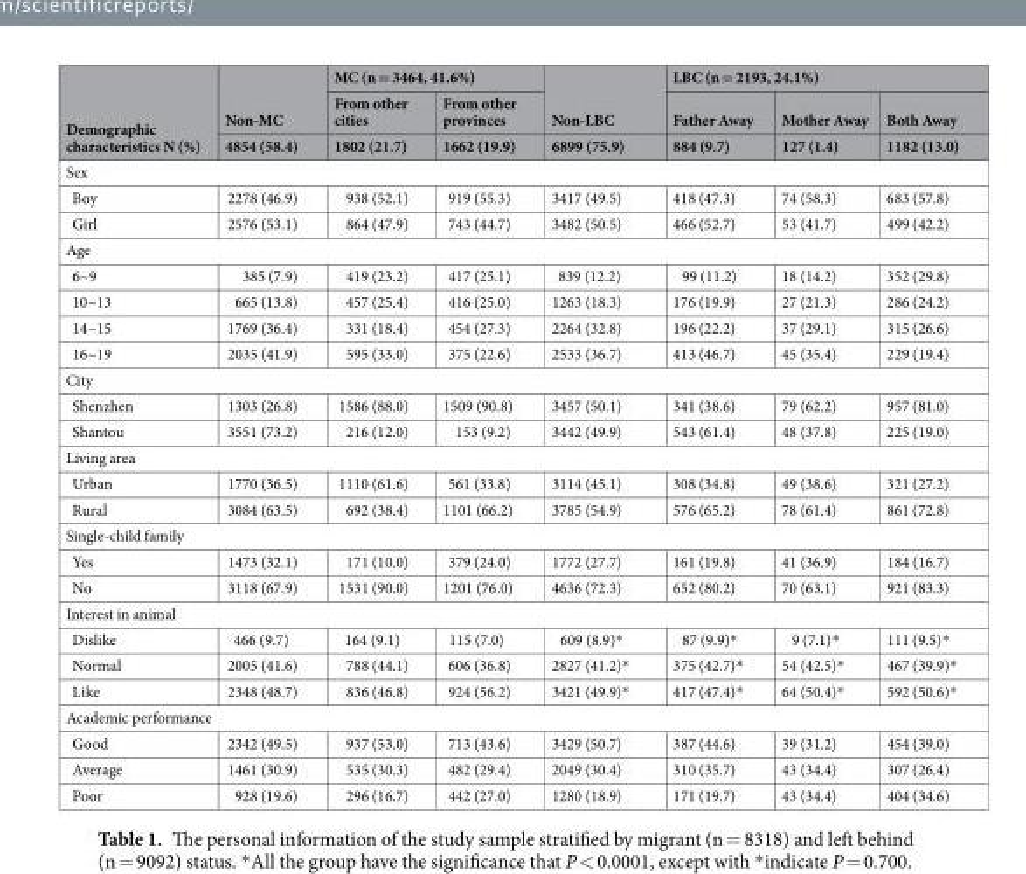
<table><thead><tr><td rowspan="3">Demographic characteristics N (%)</td><td rowspan="3">Non-MC 4854 (58.4)</td><td colspan="2">MC (n = 3464, 41.6%)</td><td rowspan="3">Non-LBC 6899 (75.9)</td><td colspan="3">LBC (n = 2193, 24.1%)</td></tr><tr><td rowspan="2">From other cities 1802 (21.7)</td><td rowspan="2">From other provinces 1662 (19.9)</td><td rowspan="2">Father Away 884 (9.7)</td><td rowspan="2">Mother Away 127 (1.4)</td><td rowspan="2">Both Away 1182 (13.0)</td></tr><tr></tr></thead><tbody><tr><td colspan="8">Sex</td></tr><tr><td>Boy</td><td>2278 (46.9)</td><td>938 (52.1)</td><td>919 (55.3)</td><td>3417 (49.5)</td><td>418 (47.3)</td><td>74 (58.3)</td><td>683 (57.8)</td></tr><tr><td>Girl</td><td>2576 (53.1)</td><td>864 (47.9)</td><td>743 (44.7)</td><td>3482 (50.5)</td><td>466 (52.7)</td><td>53 (41.7)</td><td>499 (42.2)</td></tr><tr><td colspan="8">Age</td></tr><tr><td>6~9</td><td>385 (7.9)</td><td>419 (23.2)</td><td>417 (25.1)</td><td>839 (12.2)</td><td>99 (11.2)</td><td>18 (14.2)</td><td>352 (29.8)</td></tr><tr><td>10~13</td><td>665 (13.8)</td><td>457 (25.4)</td><td>416 (25.0)</td><td>1263 (18.3)</td><td>176 (19.9)</td><td>27 (21.3)</td><td>286 (24.2)</td></tr><tr><td>14~15</td><td>1769 (36.4)</td><td>331 (18.4)</td><td>454 (27.3)</td><td>2264 (32.8)</td><td>196 (22.2)</td><td>37 (29.1)</td><td>315 (26.6)</td></tr><tr><td>16~19</td><td>2035 (41.9)</td><td>595 (33.0)</td><td>375 (22.6)</td><td>2533 (36.7)</td><td>413 (46.7)</td><td>45 (35.4)</td><td>229 (19.4)</td></tr><tr><td colspan="8">City</td></tr><tr><td>Shenzhen</td><td>1303 (26.8)</td><td>1586 (88.0)</td><td>1509 (90.8)</td><td>3457 (50.1)</td><td>341 (38.6)</td><td>79 (62.2)</td><td>957 (81.0)</td></tr><tr><td>Shantou</td><td>3551 (73.2)</td><td>216 (12.0)</td><td>153 (9.2)</td><td>3442 (49.9)</td><td>543 (61.4)</td><td>48 (37.8)</td><td>225 (19.0)</td></tr><tr><td colspan="8">Living area</td></tr><tr><td>Urban</td><td>1770 (36.5)</td><td>1110 (61.6)</td><td>561 (33.8)</td><td>3114 (45.1)</td><td>308 (34.8)</td><td>49 (38.6)</td><td>321 (27.2)</td></tr><tr><td>Rural</td><td>3084 (63.5)</td><td>692 (38.4)</td><td>1101 (66.2)</td><td>3785 (54.9)</td><td>576 (65.2)</td><td>78 (61.4)</td><td>861 (72.8)</td></tr><tr><td colspan="8">Single-child family</td></tr><tr><td>Yes</td><td>1473 (32.1)</td><td>171 (10.0)</td><td>379 (24.0)</td><td>1772 (27.7)</td><td>161 (19.8)</td><td>41 (36.9)</td><td>184 (16.7)</td></tr><tr><td>No</td><td>3118 (67.9)</td><td>1531 (90.0)</td><td>1201 (76.0)</td><td>4636 (72.3)</td><td>652 (80.2)</td><td>70 (63.1)</td><td>921 (83.3)</td></tr><tr><td colspan="8">Interest in animal</td></tr><tr><td>Dislike</td><td>466 (9.7)</td><td>164 (9.1)</td><td>115 (7.0)</td><td>609 (8.9)*</td><td>87 (9.9)*</td><td>9 (7.1)*</td><td>111 (9.5)*</td></tr><tr><td>Normal</td><td>2005 (41.6)</td><td>788 (44.1)</td><td>606 (36.8)</td><td>2827 (41.2)*</td><td>375 (42.7)*</td><td>54 (42.5)*</td><td>467 (39.9)*</td></tr><tr><td>Like</td><td>2348 (48.7)</td><td>836 (46.8)</td><td>924 (56.2)</td><td>3421 (49.9)*</td><td>417 (47.4)*</td><td>64 (50.4)*</td><td>592 (50.6)*</td></tr><tr><td colspan="8">Academic performance</td></tr><tr><td>Good</td><td>2342 (49.5)</td><td>937 (53.0)</td><td>713 (43.6)</td><td>3429 (50.7)</td><td>387 (44.6)</td><td>39 (31.2)</td><td>454 (39.0)</td></tr><tr><td>Average</td><td>1461 (30.9)</td><td>535 (30.3)</td><td>482 (29.4)</td><td>2049 (30.4)</td><td>310 (35.7)</td><td>43 (34.4)</td><td>307 (26.4)</td></tr><tr><td>Poor</td><td>928 (19.6)</td><td>296 (16.7)</td><td>442 (27.0)</td><td>1280 (18.9)</td><td>171 (19.7)</td><td>43 (34.4)</td><td>404 (34.6)</td></tr></tbody></table>